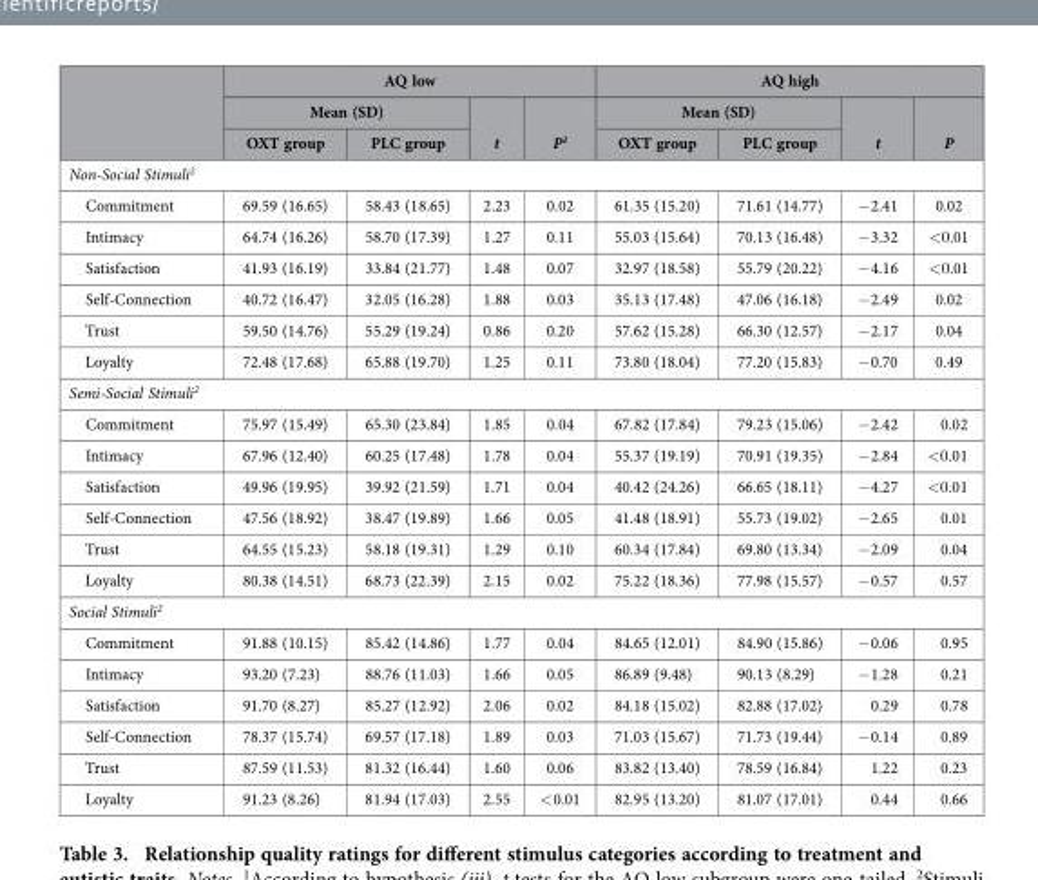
<table><thead><tr><td rowspan="3"></td><td colspan="4">AQ low</td><td colspan="4">AQ high</td></tr><tr><td colspan="2">Mean (SD)</td><td rowspan="2">t</td><td rowspan="2">P<sup>1</sup></td><td colspan="2">Mean (SD)</td><td rowspan="2">t</td><td rowspan="2">P</td></tr><tr><td>OXT group</td><td>PLC group</td><td>OXT group</td><td>PLC group</td></tr></thead><tbody><tr><td colspan="9">Non-Social Stimuli<sup>2</sup></td></tr><tr><td>Commitment</td><td>69.59 (16.65)</td><td>58.43 (18.65)</td><td>2.23</td><td>0.02</td><td>61.35 (15.20)</td><td>71.61 (14.77)</td><td>− 2.41</td><td>0.02</td></tr><tr><td>Intimacy</td><td>64.74 (16.26)</td><td>58.70 (17.39)</td><td>1.27</td><td>0.11</td><td>55.03 (15.64)</td><td>70.13 (16.48)</td><td>− 3.32</td><td>&lt;0.01</td></tr><tr><td>Satisfaction</td><td>41.93 (16.19)</td><td>33.84 (21.77)</td><td>1.48</td><td>0.07</td><td>32.97 (18.58)</td><td>55.79 (20.22)</td><td>− 4.16</td><td>&lt;0.01</td></tr><tr><td>Self-Connection</td><td>40.72 (16.47)</td><td>32.05 (16.28)</td><td>1.88</td><td>0.03</td><td>35.13 (17.48)</td><td>47.06 (16.18)</td><td>− 2.49</td><td>0.02</td></tr><tr><td>Trust</td><td>59.50 (14.76)</td><td>55.29 (19.24)</td><td>0.86</td><td>0.20</td><td>57.62 (15.28)</td><td>66.30 (12.57)</td><td>− 2.17</td><td>0.04</td></tr><tr><td>Loyalty</td><td>72.48 (17.68)</td><td>65.88 (19.70)</td><td>1.25</td><td>0.11</td><td>73.80 (18.04)</td><td>77.20 (15.83)</td><td>− 0.70</td><td>0.49</td></tr><tr><td colspan="9">Semi-Social Stimuli<sup>2</sup></td></tr><tr><td>Commitment</td><td>75.97 (15.49)</td><td>65.30 (23.84)</td><td>1.85</td><td>0.04</td><td>67.82 (17.84)</td><td>79.23 (15.06)</td><td>− 2.42</td><td>0.02</td></tr><tr><td>Intimacy</td><td>67.96 (12.40)</td><td>60.25 (17.48)</td><td>1.78</td><td>0.04</td><td>55.37 (19.19)</td><td>70.91 (19.35)</td><td>− 2.84</td><td>&lt;0.01</td></tr><tr><td>Satisfaction</td><td>49.96 (19.95)</td><td>39.92 (21.59)</td><td>1.71</td><td>0.04</td><td>40.42 (24.26)</td><td>66.65 (18.11)</td><td>− 4.27</td><td>&lt;0.01</td></tr><tr><td>Self-Connection</td><td>47.56 (18.92)</td><td>38.47 (19.89)</td><td>1.66</td><td>0.05</td><td>41.48 (18.91)</td><td>55.73 (19.02)</td><td>− 2.65</td><td>0.01</td></tr><tr><td>Trust</td><td>64.55 (15.23)</td><td>58.18 (19.31)</td><td>1.29</td><td>0.10</td><td>60.34 (17.84)</td><td>69.80 (13.34)</td><td>− 2.09</td><td>0.04</td></tr><tr><td>Loyalty</td><td>80.38 (14.51)</td><td>68.73 (22.39)</td><td>2.15</td><td>0.02</td><td>75.22 (18.36)</td><td>77.98 (15.57)</td><td>− 0.57</td><td>0.57</td></tr><tr><td colspan="9">Social Stimuli<sup>2</sup></td></tr><tr><td>Commitment</td><td>91.88 (10.15)</td><td>85.42 (14.86)</td><td>1.77</td><td>0.04</td><td>84.65 (12.01)</td><td>84.90 (15.86)</td><td>− 0.06</td><td>0.95</td></tr><tr><td>Intimacy</td><td>93.20 (7.23)</td><td>88.76 (11.03)</td><td>1.66</td><td>0.05</td><td>86.89 (9.48)</td><td>90.13 (8.29)</td><td>− 1.28</td><td>0.21</td></tr><tr><td>Satisfaction</td><td>91.70 (8.27)</td><td>85.27 (12.92)</td><td>2.06</td><td>0.02</td><td>84.18 (15.02)</td><td>82.88 (17.02)</td><td>0.29</td><td>0.78</td></tr><tr><td>Self-Connection</td><td>78.37 (15.74)</td><td>69.57 (17.18)</td><td>1.89</td><td>0.03</td><td>71.03 (15.67)</td><td>71.73 (19.44)</td><td>− 0.14</td><td>0.89</td></tr><tr><td>Trust</td><td>87.59 (11.53)</td><td>81.32 (16.44)</td><td>1.60</td><td>0.06</td><td>83.82 (13.40)</td><td>78.59 (16.84)</td><td>1.22</td><td>0.23</td></tr><tr><td>Loyalty</td><td>91.23 (8.26)</td><td>81.94 (17.03)</td><td>2.55</td><td>&lt; 0.01</td><td>82.95 (13.20)</td><td>81.07 (17.01)</td><td>0.44</td><td>0.66</td></tr></tbody></table>